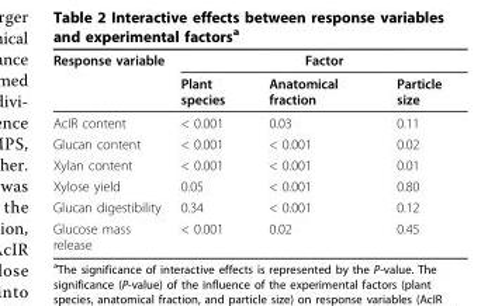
<table><thead><tr><td rowspan="2">Response variable</td><td colspan="3">Factor</td></tr><tr><td>Plant species</td><td>Anatomical fraction</td><td>Particle size</td></tr></thead><tbody><tr><td>AcIR content</td><td>&lt; 0.001</td><td>0.03</td><td>0.11</td></tr><tr><td>Glucan content</td><td>&lt; 0.001</td><td>&lt; 0.001</td><td>0.02</td></tr><tr><td>Xylan content</td><td>&lt; 0.001</td><td>&lt; 0.001</td><td>0.01</td></tr><tr><td>Xylose yield</td><td>0.05</td><td>&lt; 0.001</td><td>0.80</td></tr><tr><td>Glucan digestibility</td><td>0.34</td><td>&lt; 0.001</td><td>0.12</td></tr><tr><td>Glucose mass release</td><td>&lt; 0.001</td><td>0.02</td><td>0.45</td></tr></tbody></table>